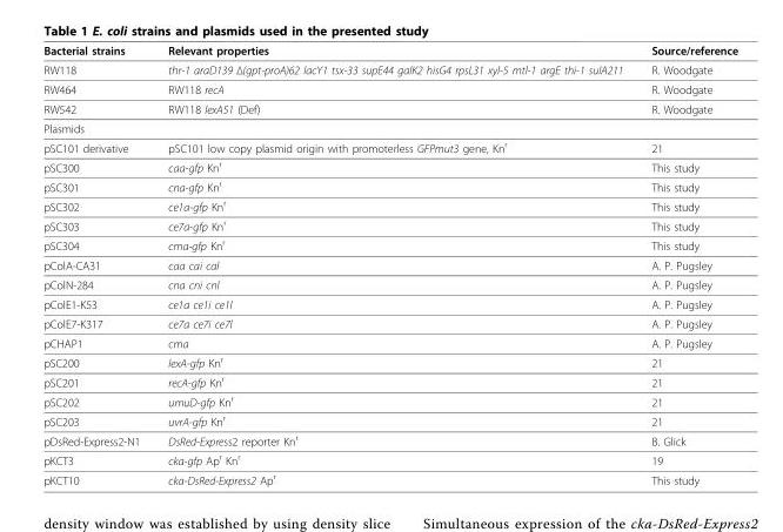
<table><thead><tr><td>Bacterial strains</td><td>Relevant properties</td><td>Source/reference</td></tr></thead><tbody><tr><td>RW118</td><td>thr-1 araD139 Δ(gpt-proA)62 lacY1 tsx-33 supE44 galK2 hisG4 rpsL31 xyl-5 mtl-1 argE thi-1 sulA211</td><td>R. Woodgate</td></tr><tr><td>RW464</td><td>RW118 recA</td><td>R. Woodgate</td></tr><tr><td>RW542</td><td>RW118 lexA51 (Def)</td><td>R. Woodgate</td></tr><tr><td colspan="3">Plasmids</td></tr><tr><td>pSC101 derivative</td><td>pSC101 low copy plasmid origin with promoterless GFPmut3 gene, Kn<sup>r</sup></td><td>21</td></tr><tr><td>pSC300</td><td>caa-gfp Kn<sup>r</sup></td><td>This study</td></tr><tr><td>pSC301</td><td>cna-gfp Kn<sup>r</sup></td><td>This study</td></tr><tr><td>pSC302</td><td>ce1a-gfp Kn<sup>r</sup></td><td>This study</td></tr><tr><td>pSC303</td><td>ce7a-gfp Kn<sup>r</sup></td><td>This study</td></tr><tr><td>pSC304</td><td>cma-gfp Kn<sup>r</sup></td><td>This study</td></tr><tr><td>pColA-CA31</td><td>caa cai cal</td><td>A. P. Pugsley</td></tr><tr><td>pColN-284</td><td>cna cni cnl</td><td>A. P. Pugsley</td></tr><tr><td>pColE1-K53</td><td>ce1a ce1i ce1l</td><td>A. P. Pugsley</td></tr><tr><td>pColE7-K317</td><td>ce7a ce7i ce7l</td><td>A. P. Pugsley</td></tr><tr><td>pCHAP1</td><td>cma</td><td>A. P. Pugsley</td></tr><tr><td>pSC200</td><td>lexA-gfp Kn<sup>r</sup></td><td>21</td></tr><tr><td>pSC201</td><td>recA-gfp Kn<sup>r</sup></td><td>21</td></tr><tr><td>pSC202</td><td>umuD-gfp Kn<sup>r</sup></td><td>21</td></tr><tr><td>pSC203</td><td>uvrA-gfp Kn<sup>r</sup></td><td>21</td></tr><tr><td>pDsRed-Express2-N1</td><td>DsRed-Express2 reporter Kn<sup>r</sup></td><td>B. Glick</td></tr><tr><td>pKCT3</td><td>cka-gfp Ap<sup>r</sup> Kn<sup>r</sup></td><td>19</td></tr><tr><td>pKCT10</td><td>cka-DsRed-Express2 Ap<sup>r</sup></td><td>This study</td></tr></tbody></table>